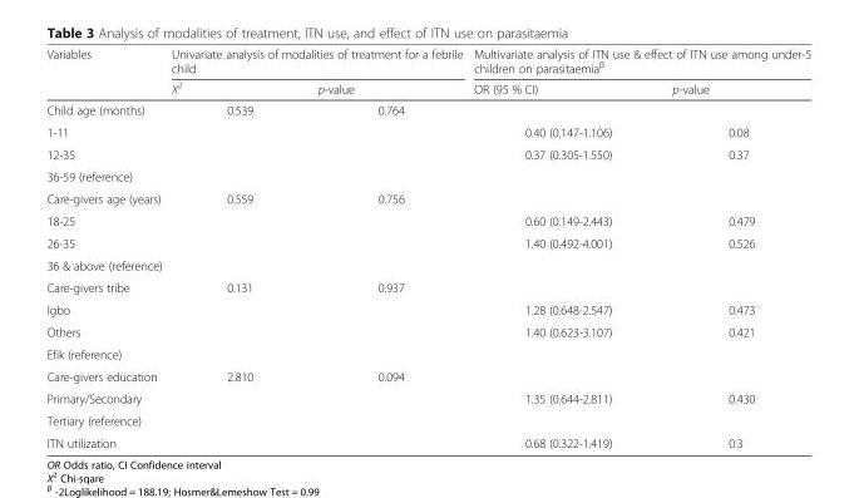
<table><thead><tr><td rowspan="2">Variables</td><td colspan="2">Univariate analysis of modalities of treatment for a febrile child</td><td colspan="2">Multivariate analysis of ITN use &amp; effect of ITN use among under-5 children on parasitaemia<sup>β</sup></td></tr><tr><td>X<sup>2</sup></td><td>p-value</td><td>OR (95 % CI)</td><td>p-value</td></tr></thead><tbody><tr><td>Child age (months)</td><td>0.539</td><td>0.764</td><td></td><td></td></tr><tr><td>1-11</td><td></td><td></td><td>0.40 (0.147-1.106)</td><td>0.08</td></tr><tr><td>12-35</td><td></td><td></td><td>0.37 (0.305-1.550)</td><td>0.37</td></tr><tr><td colspan="5">36-59 (reference)</td></tr><tr><td>Care-givers age (years)</td><td>0.559</td><td>0.756</td><td></td><td></td></tr><tr><td>18-25</td><td></td><td></td><td>0.60 (0.149-2.443)</td><td>0.479</td></tr><tr><td>26-35</td><td></td><td></td><td>1.40 (0.492-4.001)</td><td>0.526</td></tr><tr><td colspan="5">36 &amp; above (reference)</td></tr><tr><td>Care-givers tribe</td><td>0.131</td><td>0.937</td><td></td><td></td></tr><tr><td>Igbo</td><td></td><td></td><td>1.28 (0.648-2.547)</td><td>0.473</td></tr><tr><td>Others</td><td></td><td></td><td>1.40 (0.623-3.107)</td><td>0.421</td></tr><tr><td colspan="5">Efik (reference)</td></tr><tr><td>Care-givers education</td><td>2.810</td><td>0.094</td><td></td><td></td></tr><tr><td>Primary/Secondary</td><td></td><td></td><td>1.35 (0.644-2.811)</td><td>0.430</td></tr><tr><td colspan="5">Tertiary (reference)</td></tr><tr><td>ITN utilization</td><td></td><td></td><td>0.68 (0.322-1.419)</td><td>0.3</td></tr></tbody></table>